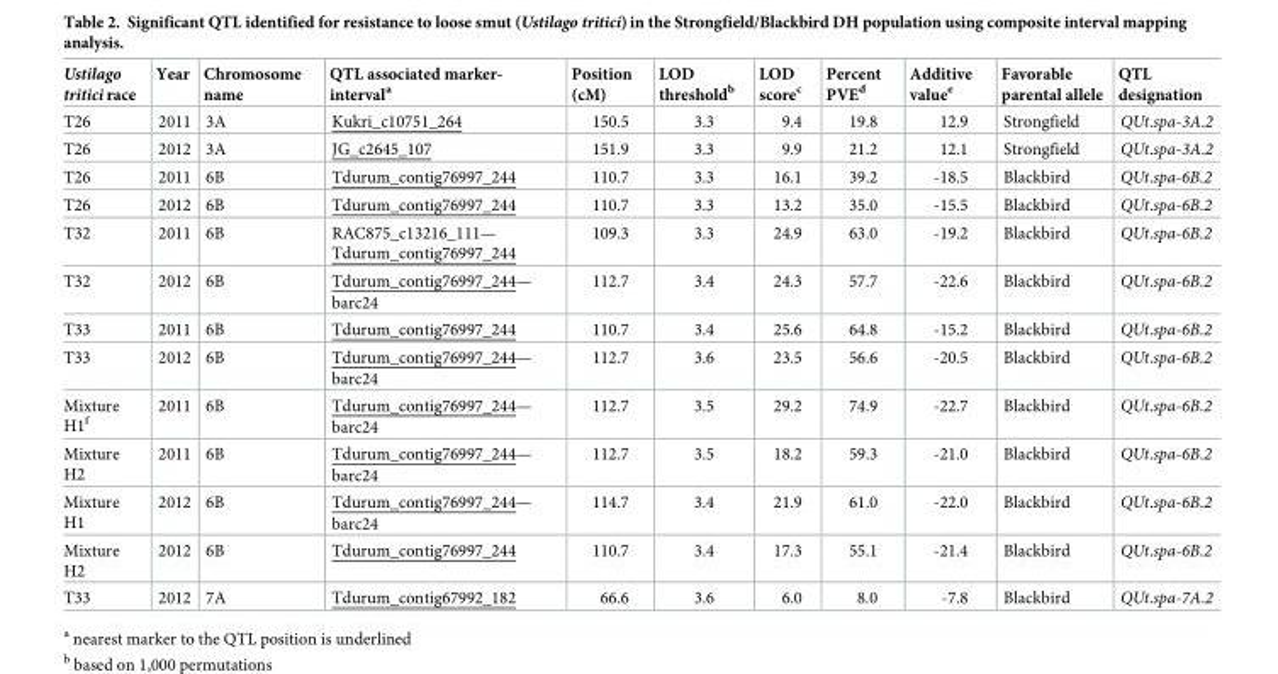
<table><thead><tr><td>Ustilago tritici race</td><td>Year</td><td>Chromosome name</td><td>QTL associated marker- interval<sup>a</sup></td><td>Position (cM)</td><td>LOD threshold<sup>b</sup></td><td>LOD score<sup>c</sup></td><td>Percent PVE<sup>d</sup></td><td>Additive value<sup>e</sup></td><td>Favorable parental allele</td><td>QTL designation</td></tr></thead><tbody><tr><td>T26</td><td>2011</td><td>3A</td><td>Kukri_c10751_264</td><td>150.5</td><td>3.3</td><td>9.4</td><td>19.8</td><td>12.9</td><td>Strongfield</td><td>QUt.spa-3A.2</td></tr><tr><td>T26</td><td>2012</td><td>3A</td><td>JG_c2645_107</td><td>151.9</td><td>3.3</td><td>9.9</td><td>21.2</td><td>12.1</td><td>Strongfield</td><td>QUt.spa-3A.2</td></tr><tr><td>T26</td><td>2011</td><td>6B</td><td>Tdurum_contig76997_244</td><td>110.7</td><td>3.3</td><td>16.1</td><td>39.2</td><td>-18.5</td><td>Blackbird</td><td>QUt.spa-6B.2</td></tr><tr><td>T26</td><td>2012</td><td>6B</td><td>Tdurum_contig76997_244</td><td>110.7</td><td>3.3</td><td>13.2</td><td>35.0</td><td>-15.5</td><td>Blackbird</td><td>QUt.spa-6B.2</td></tr><tr><td>T32</td><td>2011</td><td>6B</td><td>RAC875_c13216_111— Tdurum_contig76997_244</td><td>109.3</td><td>3.3</td><td>24.9</td><td>63.0</td><td>-19.2</td><td>Blackbird</td><td>QUt.spa-6B.2</td></tr><tr><td>T32</td><td>2012</td><td>6B</td><td>Tdurum_contig76997_244— barc24</td><td>112.7</td><td>3.4</td><td>24.3</td><td>57.7</td><td>-22.6</td><td>Blackbird</td><td>QUt.spa-6B.2</td></tr><tr><td>T33</td><td>2011</td><td>6B</td><td>Tdurum_contig76997_244</td><td>110.7</td><td>3.4</td><td>25.6</td><td>64.8</td><td>-15.2</td><td>Blackbird</td><td>QUt.spa-6B.2</td></tr><tr><td>T33</td><td>2012</td><td>6B</td><td>Tdurum_contig76997_244— barc24</td><td>112.7</td><td>3.6</td><td>23.5</td><td>56.6</td><td>-20.5</td><td>Blackbird</td><td>QUt.spa-6B.2</td></tr><tr><td>Mixture H1<sup>f</sup></td><td>2011</td><td>6B</td><td>Tdurum_contig76997_244— barc24</td><td>112.7</td><td>3.5</td><td>29.2</td><td>74.9</td><td>-22.7</td><td>Blackbird</td><td>QUt.spa-6B.2</td></tr><tr><td>Mixture H2</td><td>2011</td><td>6B</td><td>Tdurum_contig76997_244— barc24</td><td>112.7</td><td>3.5</td><td>18.2</td><td>59.3</td><td>-21.0</td><td>Blackbird</td><td>QUt.spa-6B.2</td></tr><tr><td>Mixture H1</td><td>2012</td><td>6B</td><td>Tdurum_contig76997_244— barc24</td><td>114.7</td><td>3.4</td><td>21.9</td><td>61.0</td><td>-22.0</td><td>Blackbird</td><td>QUt.spa-6B.2</td></tr><tr><td>Mixture H2</td><td>2012</td><td>6B</td><td>Tdurum_contig76997_244</td><td>110.7</td><td>3.4</td><td>17.3</td><td>55.1</td><td>-21.4</td><td>Blackbird</td><td>QUt.spa-6B.2</td></tr><tr><td>T33</td><td>2012</td><td>7A</td><td>Tdurum_contig67992_182</td><td>66.6</td><td>3.6</td><td>6.0</td><td>8.0</td><td>-7.8</td><td>Blackbird</td><td>QUt.spa-7A.2</td></tr></tbody></table>